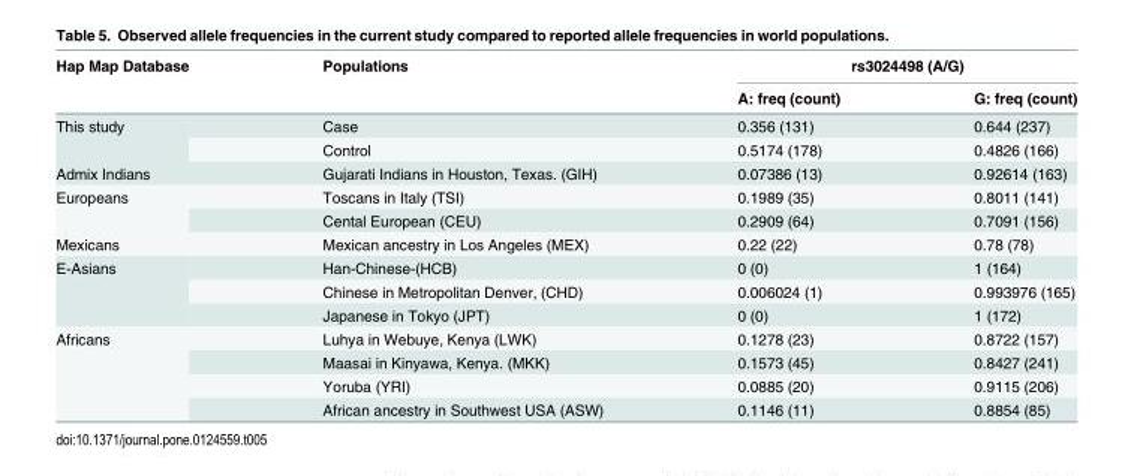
<table><thead><tr><td rowspan="2">Hap Map Database</td><td rowspan="2">Populations</td><td colspan="2">rs3024498 (A/G)</td></tr><tr><td>A: freq (count)</td><td>G: freq (count)</td></tr></thead><tbody><tr><td rowspan="2">This study</td><td>Case</td><td>0.356 (131)</td><td>0.644 (237)</td></tr><tr><td>Control</td><td>0.5174 (178)</td><td>0.4826 (166)</td></tr><tr><td>Admix Indians</td><td>Gujarati Indians in Houston, Texas. (GIH)</td><td>0.07386 (13)</td><td>0.92614 (163)</td></tr><tr><td rowspan="2">Europeans</td><td>Toscans in Italy (TSI)</td><td>0.1989 (35)</td><td>0.8011 (141)</td></tr><tr><td>Cental European (CEU)</td><td>0.2909 (64)</td><td>0.7091 (156)</td></tr><tr><td>Mexicans</td><td>Mexican ancestry in Los Angeles (MEX)</td><td>0.22 (22)</td><td>0.78 (78)</td></tr><tr><td rowspan="3">E-Asians</td><td>Han-Chinese-(HCB)</td><td>0 (0)</td><td>1 (164)</td></tr><tr><td>Chinese in Metropolitan Denver, (CHD)</td><td>0.006024 (1)</td><td>0.993976 (165)</td></tr><tr><td>Japanese in Tokyo (JPT)</td><td>0 (0)</td><td>1 (172)</td></tr><tr><td rowspan="4">Africans</td><td>Luhya in Webuye, Kenya (LWK)</td><td>0.1278 (23)</td><td>0.8722 (157)</td></tr><tr><td>Maasai in Kinyawa, Kenya. (MKK)</td><td>0.1573 (45)</td><td>0.8427 (241)</td></tr><tr><td>Yoruba (YRI)</td><td>0.0885 (20)</td><td>0.9115 (206)</td></tr><tr><td>African ancestry in Southwest USA (ASW)</td><td>0.1146 (11)</td><td>0.8854 (85)</td></tr></tbody></table>